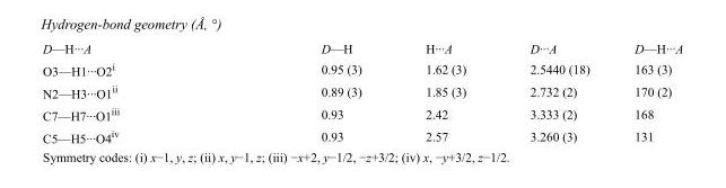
<table><tbody><tr><td>D—H···A</td><td>D—H</td><td>H···A</td><td>D···A</td><td>D—H···A</td></tr><tr><td>O3—H1···O2<sup>i</sup></td><td>0.95 (3)</td><td>1.62 (3)</td><td>2.5440 (18)</td><td>163 (3)</td></tr><tr><td>N2—H3···O1<sup>ii</sup></td><td>0.89 (3)</td><td>1.85 (3)</td><td>2.732 (2)</td><td>170 (2)</td></tr><tr><td>C7—H7···O1<sup>iii</sup></td><td>0.93</td><td>2.42</td><td>3.333 (2)</td><td>168</td></tr><tr><td>C5—H5···O4<sup>iv</sup></td><td>0.93</td><td>2.57</td><td>3.260 (3)</td><td>131</td></tr></tbody></table>